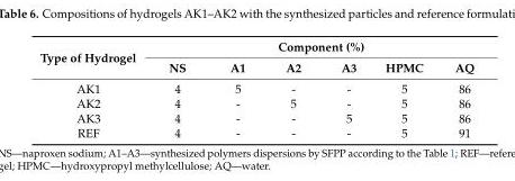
<table><thead><tr><td rowspan="2">Type of Hydrogel</td><td colspan="6">Component (%)</td></tr><tr><td>NS</td><td>A1</td><td>A2</td><td>A3</td><td>HPMC</td><td>AQ</td></tr></thead><tbody><tr><td>AK1</td><td>4</td><td>5</td><td>-</td><td>-</td><td>5</td><td>86</td></tr><tr><td>AK2</td><td>4</td><td>-</td><td>5</td><td>-</td><td>5</td><td>86</td></tr><tr><td>AK3</td><td>4</td><td>-</td><td>-</td><td>5</td><td>5</td><td>86</td></tr><tr><td>REF</td><td>4</td><td>-</td><td>-</td><td>-</td><td>5</td><td>91</td></tr></tbody></table>